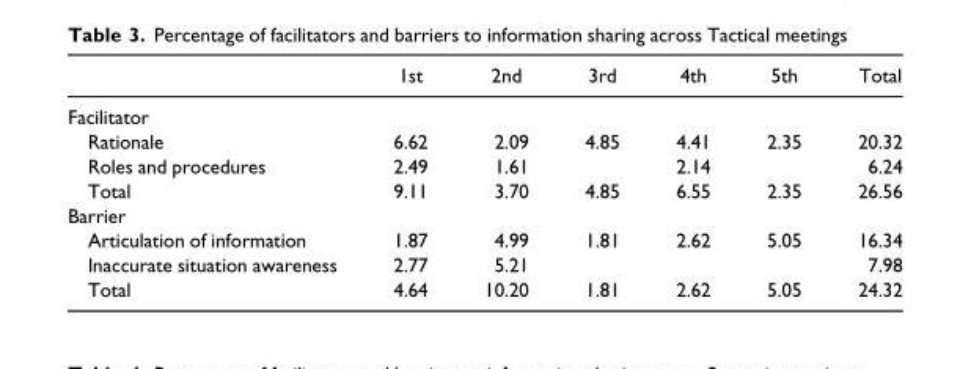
<table><thead><tr><td></td><td>1st</td><td>2nd</td><td>3rd</td><td>4th</td><td>5th</td><td>Total</td></tr></thead><tbody><tr><td colspan="7">Facilitator</td></tr><tr><td>Rationale</td><td>6.62</td><td>2.09</td><td>4.85</td><td>4.41</td><td>2.35</td><td>20.32</td></tr><tr><td>Roles and procedures</td><td>2.49</td><td>1.61</td><td></td><td>2.14</td><td></td><td>6.24</td></tr><tr><td>Total</td><td>9.11</td><td>3.70</td><td>4.85</td><td>6.55</td><td>2.35</td><td>26.56</td></tr><tr><td colspan="7">Barrier</td></tr><tr><td>Articulation of information</td><td>1.87</td><td>4.99</td><td>1.81</td><td>2.62</td><td>5.05</td><td>16.34</td></tr><tr><td>Inaccurate situation awareness</td><td>2.77</td><td>5.21</td><td></td><td></td><td></td><td>7.98</td></tr><tr><td>Total</td><td>4.64</td><td>10.20</td><td>1.81</td><td>2.62</td><td>5.05</td><td>24.32</td></tr></tbody></table>